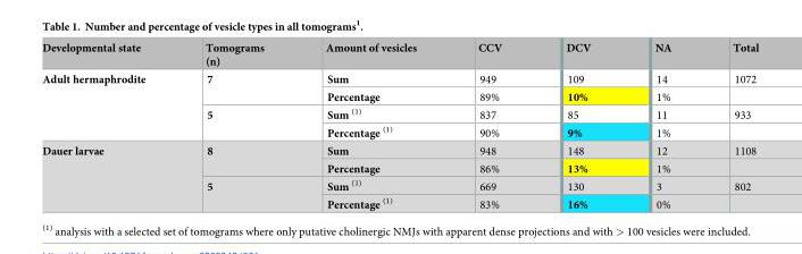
<table><thead><tr><td>Developmental state</td><td>Tomograms (n)</td><td>Amount of vesicles</td><td>CCV</td><td>DCV</td><td>NA</td><td>Total</td></tr></thead><tbody><tr><td rowspan="4">Adult hermaphrodite</td><td rowspan="2">7</td><td>Sum</td><td>949</td><td>109</td><td>14</td><td>1072</td></tr><tr><td>Percentage</td><td>89%</td><td>10%</td><td>1%</td><td></td></tr><tr><td rowspan="2">5</td><td>Sum <sup>(1)</sup></td><td>837</td><td>85</td><td>11</td><td>933</td></tr><tr><td>Percentage <sup>(1)</sup></td><td>90%</td><td>9%</td><td>1%</td><td></td></tr><tr><td rowspan="4">Dauer larvae</td><td rowspan="2">8</td><td>Sum</td><td>948</td><td>148</td><td>12</td><td>1108</td></tr><tr><td>Percentage</td><td>86%</td><td>13%</td><td>1%</td><td></td></tr><tr><td rowspan="2">5</td><td>Sum <sup>(1)</sup></td><td>669</td><td>130</td><td>3</td><td>802</td></tr><tr><td>Percentage <sup>(1)</sup></td><td>83%</td><td>16%</td><td>0%</td><td></td></tr></tbody></table>